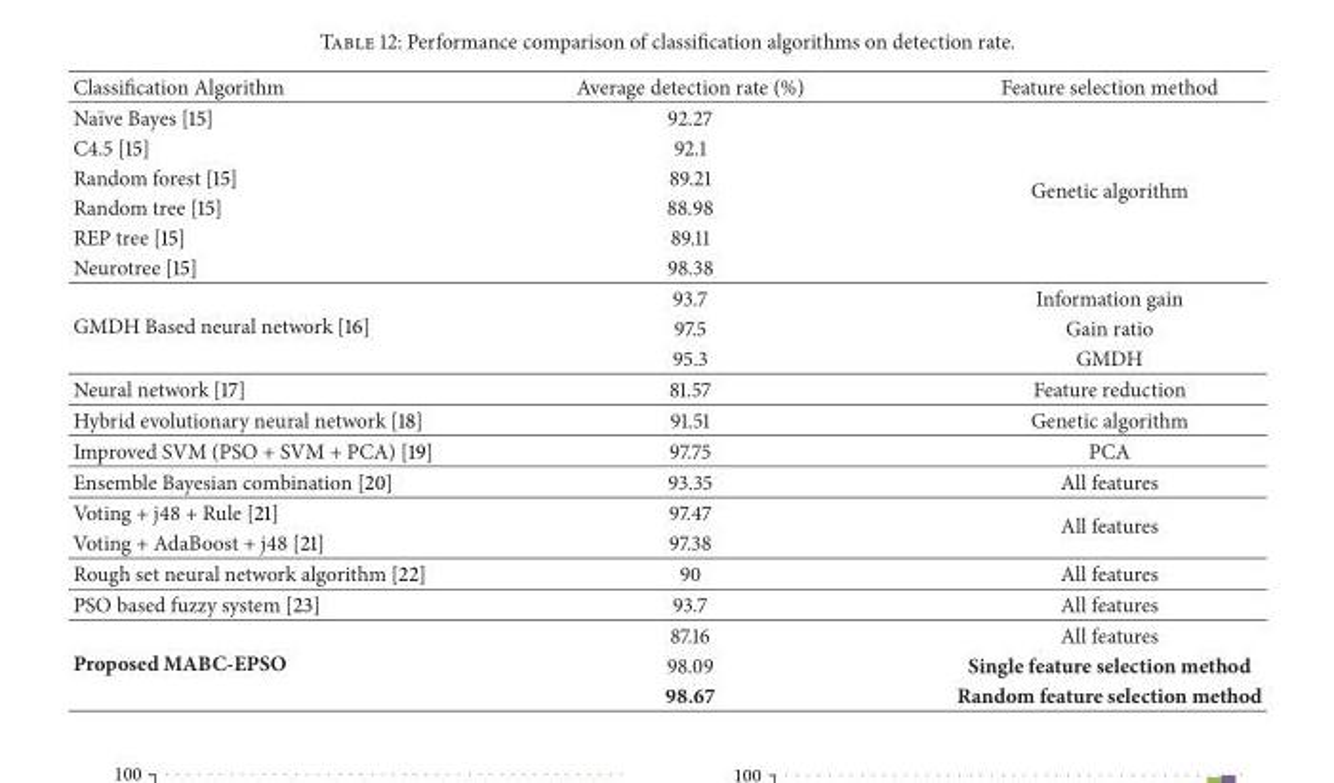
<table><thead><tr><td>Classification Algorithm</td><td>Average detection rate (%)</td><td>Feature selection method</td></tr></thead><tbody><tr><td>Na¨ıve Bayes [15]</td><td>92.27</td><td rowspan="6">Genetic algorithm</td></tr><tr><td>C4.5 [15]</td><td>92.1</td></tr><tr><td>Random forest [15]</td><td>89.21</td></tr><tr><td>Random tree [15]</td><td>88.98</td></tr><tr><td>REP tree [15]</td><td>89.11</td></tr><tr><td>Neurotree [15]</td><td>98.38</td></tr><tr><td rowspan="3">GMDH Based neural network [16]</td><td>93.7</td><td>Information gain</td></tr><tr><td>97.5</td><td>Gain ratio</td></tr><tr><td>95.3</td><td>GMDH</td></tr><tr><td>Neural network [17]</td><td>81.57</td><td>Feature reduction</td></tr><tr><td>Hybrid evolutionary neural network [18]</td><td>91.51</td><td>Genetic algorithm</td></tr><tr><td>Improved SVM (PSO + SVM + PCA) [19]</td><td>97.75</td><td>PCA</td></tr><tr><td>Ensemble Bayesian combination [20]</td><td>93.35</td><td>All features</td></tr><tr><td>Voting + j48 + Rule [21]</td><td>97.47</td><td rowspan="2">All features</td></tr><tr><td>Voting + AdaBoost + j48 [21]</td><td>97.38</td></tr><tr><td>Rough set neural network algorithm [22]</td><td>90</td><td>All features</td></tr><tr><td>PSO based fuzzy system [23]</td><td>93.7</td><td>All features</td></tr><tr><td rowspan="3">Proposed MABC-EPSO</td><td>87.16</td><td>All features</td></tr><tr><td>98.09</td><td>Single feature selection method</td></tr><tr><td>98.67</td><td>Random feature selection method</td></tr></tbody></table>